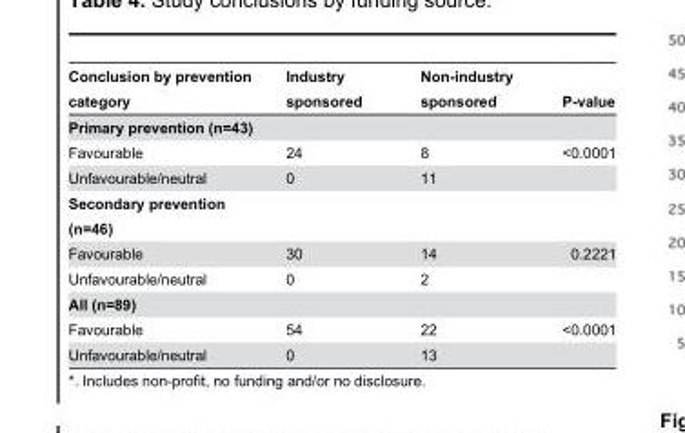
<table><thead><tr><td>Conclusion by prevention category</td><td>Industry sponsored</td><td>Non-industry sponsored *</td><td>P-value</td></tr></thead><tbody><tr><td colspan="4">Primary prevention (n=43)</td></tr><tr><td>Favourable</td><td>24</td><td>8</td><td>&lt;0.0001</td></tr><tr><td>Unfavourable/neutral</td><td>0</td><td>11</td><td></td></tr><tr><td colspan="4">Secondary prevention (n=46)</td></tr><tr><td>Favourable</td><td>30</td><td>14</td><td>0.2221</td></tr><tr><td>Unfavourable/neutral</td><td>0</td><td>2</td><td></td></tr><tr><td colspan="4">All (n=89)</td></tr><tr><td>Favourable</td><td>54</td><td>22</td><td>&lt;0.0001</td></tr><tr><td>Unfavourable/neutral</td><td>0</td><td>13</td><td></td></tr></tbody></table>